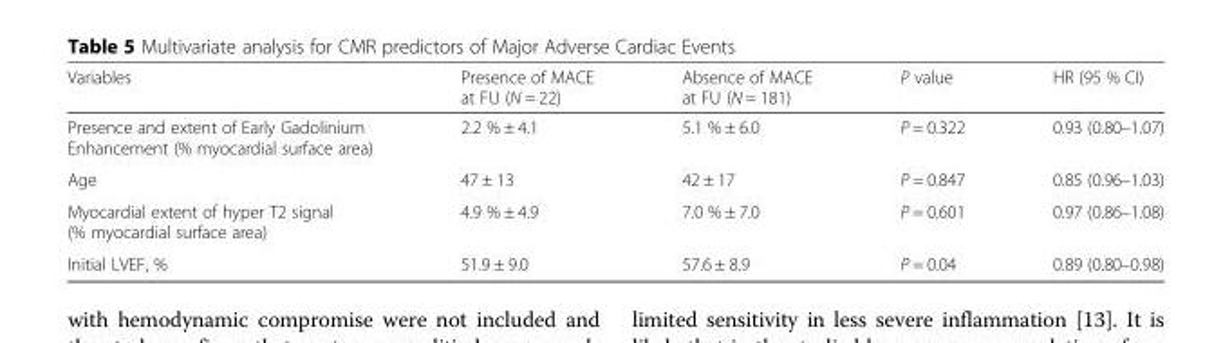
<table><thead><tr><td>Variables</td><td>Presence of MACE at FU (N = 22)</td><td>Absence of MACE at FU (N = 181)</td><td>P value</td><td>HR (95 % CI)</td></tr></thead><tbody><tr><td>Presence and extent of Early Gadolinium Enhancement (% myocardial surface area)</td><td>2.2 % ± 4.1</td><td>5.1 % ± 6.0</td><td>P = 0.322</td><td>0.93 (0.80–1.07)</td></tr><tr><td>Age</td><td>47 ± 13</td><td>42 ± 17</td><td>P = 0.847</td><td>0.85 (0.96–1.03)</td></tr><tr><td>Myocardial extent of hyper T2 signal (% myocardial surface area)</td><td>4.9 % ± 4.9</td><td>7.0 % ± 7.0</td><td>P = 0.601</td><td>0.97 (0.86–1.08)</td></tr><tr><td>Initial LVEF, %</td><td>51.9 ± 9.0</td><td>57.6 ± 8.9</td><td>P = 0.04</td><td>0.89 (0.80–0.98)</td></tr></tbody></table>